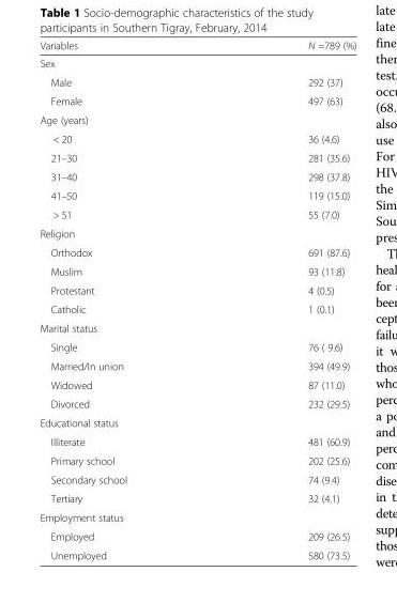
<table><thead><tr><td>Variables</td><td>N =789 (%)</td></tr></thead><tbody><tr><td colspan="2">Sex</td></tr><tr><td>Male</td><td>292 (37)</td></tr><tr><td>Female</td><td>497 (63)</td></tr><tr><td colspan="2">Age (years)</td></tr><tr><td>&lt; 20</td><td>36 (4.6)</td></tr><tr><td>21–30</td><td>281 (35.6)</td></tr><tr><td>31–40</td><td>298 (37.8)</td></tr><tr><td>41–50</td><td>119 (15.0)</td></tr><tr><td>&gt; 51</td><td>55 (7.0)</td></tr><tr><td colspan="2">Religion</td></tr><tr><td>Orthodox</td><td>691 (87.6)</td></tr><tr><td>Muslim</td><td>93 (11.8)</td></tr><tr><td>Protestant</td><td>4 (0.5)</td></tr><tr><td>Catholic</td><td>1 (0.1)</td></tr><tr><td colspan="2">Marital status</td></tr><tr><td>Single</td><td>76 ( 9.6)</td></tr><tr><td>Married/In union</td><td>394 (49.9)</td></tr><tr><td>Widowed</td><td>87 (11.0)</td></tr><tr><td>Divorced</td><td>232 (29.5)</td></tr><tr><td colspan="2">Educational status</td></tr><tr><td>Illiterate</td><td>481 (60.9)</td></tr><tr><td>Primary school</td><td>202 (25.6)</td></tr><tr><td>Secondary school</td><td>74 (9.4)</td></tr><tr><td>Tertiary</td><td>32 (4.1)</td></tr><tr><td colspan="2">Employment status</td></tr><tr><td>Employed</td><td>209 (26.5)</td></tr><tr><td>Unemployed</td><td>580 (73.5)</td></tr></tbody></table>